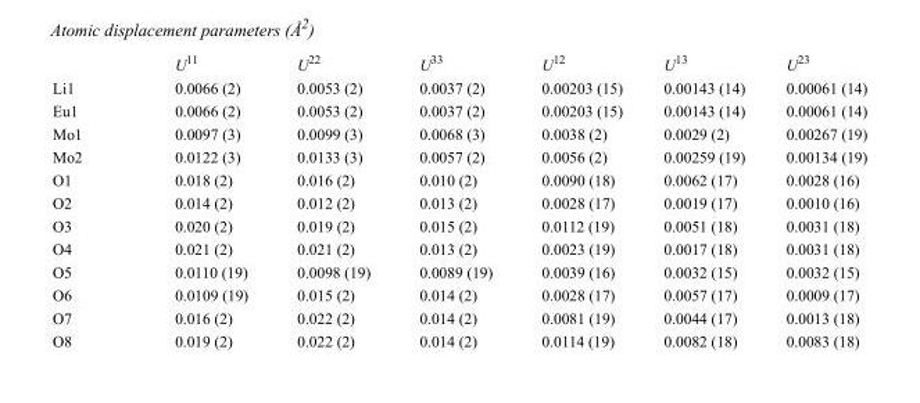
<table><thead><tr><td></td><td>U<sup>11</sup></td><td>U<sup>22</sup></td><td>U<sup>33</sup></td><td>U<sup>12</sup></td><td>U<sup>13</sup></td><td>U<sup>23</sup></td></tr></thead><tbody><tr><td>Li1</td><td>0.0066 (2)</td><td>0.0053 (2)</td><td>0.0037 (2)</td><td>0.00203 (15)</td><td>0.00143 (14)</td><td>0.00061 (14)</td></tr><tr><td>Eu1</td><td>0.0066 (2)</td><td>0.0053 (2)</td><td>0.0037 (2)</td><td>0.00203 (15)</td><td>0.00143 (14)</td><td>0.00061 (14)</td></tr><tr><td>Mo1</td><td>0.0097 (3)</td><td>0.0099 (3)</td><td>0.0068 (3)</td><td>0.0038 (2)</td><td>0.0029 (2)</td><td>0.00267 (19)</td></tr><tr><td>Mo2</td><td>0.0122 (3)</td><td>0.0133 (3)</td><td>0.0057 (2)</td><td>0.0056 (2)</td><td>0.00259 (19)</td><td>0.00134 (19)</td></tr><tr><td>O1</td><td>0.018 (2)</td><td>0.016 (2)</td><td>0.010 (2)</td><td>0.0090 (18)</td><td>0.0062 (17)</td><td>0.0028 (16)</td></tr><tr><td>O2</td><td>0.014 (2)</td><td>0.012 (2)</td><td>0.013 (2)</td><td>0.0028 (17)</td><td>0.0019 (17)</td><td>0.0010 (16)</td></tr><tr><td>O3</td><td>0.020 (2)</td><td>0.019 (2)</td><td>0.015 (2)</td><td>0.0112 (19)</td><td>0.0051 (18)</td><td>0.0031 (18)</td></tr><tr><td>O4</td><td>0.021 (2)</td><td>0.021 (2)</td><td>0.013 (2)</td><td>0.0023 (19)</td><td>0.0017 (18)</td><td>0.0031 (18)</td></tr><tr><td>O5</td><td>0.0110 (19)</td><td>0.0098 (19)</td><td>0.0089 (19)</td><td>0.0039 (16)</td><td>0.0032 (15)</td><td>0.0032 (15)</td></tr><tr><td>O6</td><td>0.0109 (19)</td><td>0.015 (2)</td><td>0.014 (2)</td><td>0.0028 (17)</td><td>0.0057 (17)</td><td>0.0009 (17)</td></tr><tr><td>O7</td><td>0.016 (2)</td><td>0.022 (2)</td><td>0.014 (2)</td><td>0.0081 (19)</td><td>0.0044 (17)</td><td>0.0013 (18)</td></tr><tr><td>O8</td><td>0.019 (2)</td><td>0.022 (2)</td><td>0.014 (2)</td><td>0.0114 (19)</td><td>0.0082 (18)</td><td>0.0083 (18)</td></tr></tbody></table>